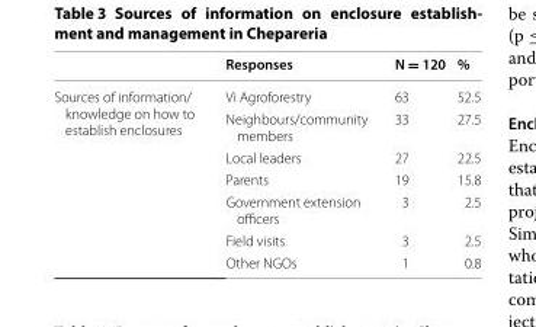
<table><thead><tr><td></td><td>Responses</td><td>N = 120</td><td>%</td></tr></thead><tbody><tr><td rowspan="7">Sources of information/ knowledge on how to establish enclosures</td><td>Vi Agroforestry</td><td>63</td><td>52.5</td></tr><tr><td>Neighbours/community members</td><td>33</td><td>27.5</td></tr><tr><td>Local leaders</td><td>27</td><td>22.5</td></tr><tr><td>Parents</td><td>19</td><td>15.8</td></tr><tr><td>Government extension officers</td><td>3</td><td>2.5</td></tr><tr><td>Field visits</td><td>3</td><td>2.5</td></tr><tr><td>Other NGOs</td><td>1</td><td>0.8</td></tr></tbody></table>